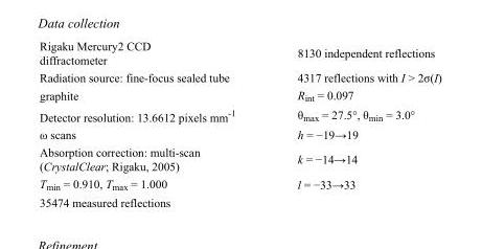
<table><tbody><tr><td>Rigaku Mercury2 CCD diffractometer</td><td>8130 independent reflections</td></tr><tr><td>Radiation source: fine-focus sealed tube</td><td>4317 reflections with I &gt; 2σ(I)</td></tr><tr><td>graphite</td><td>R<sub>int</sub> = 0.097</td></tr><tr><td>Detector resolution: 13.6612 pixels mm<sup>-1</sup></td><td>θ<sub>max</sub> = 27.5°, θ<sub>min</sub> = 3.0°</td></tr><tr><td>ω scans</td><td>h = −19→19</td></tr><tr><td>Absorption correction: multi-scan (CrystalClear; Rigaku, 2005)</td><td>k = −14→14</td></tr><tr><td>T<sub>min</sub> = 0.910, T<sub>max</sub> = 1.000</td><td>l = −33→33</td></tr><tr><td>35474 measured reflections</td><td></td></tr></tbody></table>